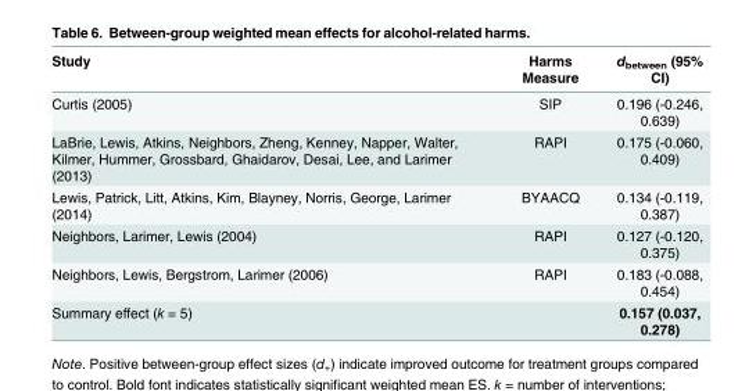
<table><thead><tr><td>Study</td><td>Harms Measure</td><td>d<sub>between</sub> (95% CI)</td></tr></thead><tbody><tr><td>Curtis (2005)</td><td>SIP</td><td>0.196 (-0.246, 0.639)</td></tr><tr><td>LaBrie, Lewis, Atkins, Neighbors, Zheng, Kenney, Napper, Walter, Kilmer, Hummer, Grossbard, Ghaidarov, Desai, Lee, and Larimer (2013)</td><td>RAPI</td><td>0.175 (-0.060, 0.409)</td></tr><tr><td>Lewis, Patrick, Litt, Atkins, Kim, Blayney, Norris, George, Larimer (2014)</td><td>BYAACQ</td><td>0.134 (-0.119, 0.387)</td></tr><tr><td>Neighbors, Larimer, Lewis (2004)</td><td>RAPI</td><td>0.127 (-0.120, 0.375)</td></tr><tr><td>Neighbors, Lewis, Bergstrom, Larimer (2006)</td><td>RAPI</td><td>0.183 (-0.088, 0.454)</td></tr><tr><td>Summary effect (k = 5)</td><td></td><td>0.157 (0.037, 0.278)</td></tr></tbody></table>